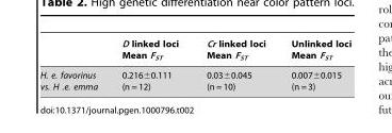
<table><thead><tr><td></td><td>D linked loci Mean F<sub>ST</sub></td><td>Cr linked loci Mean F<sub>ST</sub></td><td>Unlinked loci Mean F<sub>ST</sub></td></tr></thead><tbody><tr><td>H. e. favorinus vs. H .e. emma</td><td>0.216±0.111 (n = 12)</td><td>0.03±0.045 (n = 10)</td><td>0.007±0.015 (n = 3)</td></tr></tbody></table>